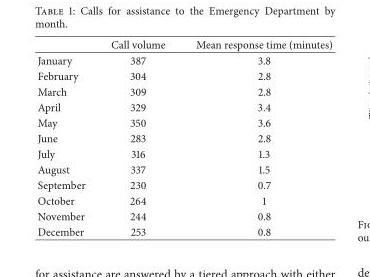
<table><thead><tr><td></td><td>Call volume</td><td>Mean response time (minutes)</td></tr></thead><tbody><tr><td>January</td><td>387</td><td>3.8</td></tr><tr><td>February</td><td>304</td><td>2.8</td></tr><tr><td>March</td><td>309</td><td>2.8</td></tr><tr><td>April</td><td>329</td><td>3.4</td></tr><tr><td>May</td><td>350</td><td>3.6</td></tr><tr><td>June</td><td>283</td><td>2.8</td></tr><tr><td>July</td><td>316</td><td>1.3</td></tr><tr><td>August</td><td>337</td><td>1.5</td></tr><tr><td>September</td><td>230</td><td>0.7</td></tr><tr><td>October</td><td>264</td><td>1</td></tr><tr><td>November</td><td>244</td><td>0.8</td></tr><tr><td>December</td><td>253</td><td>0.8</td></tr></tbody></table>